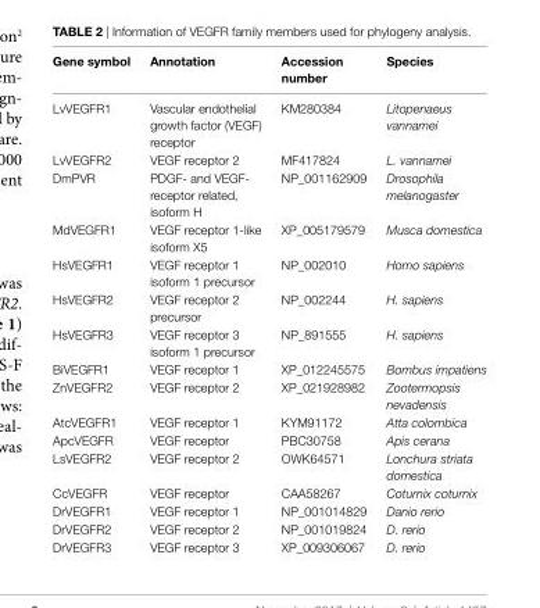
<table><thead><tr><td>gene symbol</td><td>annotation</td><td>accession number</td><td>species</td></tr></thead><tbody><tr><td>LvVEGFR1</td><td>Vascular endothelial growth factor (VEGF) receptor</td><td>KM280384</td><td>Litopenaeus vannamei</td></tr><tr><td>LvVEGFR2</td><td>VEGF receptor 2</td><td>MF417824</td><td>L. vannamei</td></tr><tr><td>DmPVR</td><td>PDGF- and VEGF- receptor related, isoform H</td><td>NP_001162909</td><td>Drosophila melanogaster</td></tr><tr><td>MdVEGFR1</td><td>VEGF receptor 1-like isoform X5</td><td>XP_005179579</td><td>Musca domestica</td></tr><tr><td>HsVEGFR1</td><td>VEGF receptor 1 isoform 1 precursor</td><td>NP_002010</td><td>Homo sapiens</td></tr><tr><td>HsVEGFR2</td><td>VEGF receptor 2 precursor</td><td>NP_002244</td><td>H. sapiens</td></tr><tr><td>HsVEGFR3</td><td>VEGF receptor 3 isoform 1 precursor</td><td>NP_891555</td><td>H. sapiens</td></tr><tr><td>BiVEGFR1</td><td>VEGF receptor 1</td><td>XP_012245575</td><td>Bombus impatiens</td></tr><tr><td>ZnVEGFR2</td><td>VEGF receptor 2</td><td>XP_021928982</td><td>Zootermopsis nevadensis</td></tr><tr><td>AtcVEGFR1</td><td>VEGF receptor 1</td><td>KYM91172</td><td>Atta colombica</td></tr><tr><td>ApcVEGFR</td><td>VEGF receptor</td><td>PBC30758</td><td>Apis cerana</td></tr><tr><td>LsVEGFR2</td><td>VEGF receptor 2</td><td>OWK64571</td><td>Lonchura striata domestica</td></tr><tr><td>CcVEGFR</td><td>VEGF receptor</td><td>CAA58267</td><td>Coturnix coturnix</td></tr><tr><td>DrVEGFR1</td><td>VEGF receptor 1</td><td>NP_001014829</td><td>Danio rerio</td></tr><tr><td>DrVEGFR2</td><td>VEGF receptor 2</td><td>NP_001019824</td><td>D. rerio</td></tr><tr><td>DrVEGFR3</td><td>VEGF receptor 3</td><td>XP_009306067</td><td>D. rerio</td></tr></tbody></table>